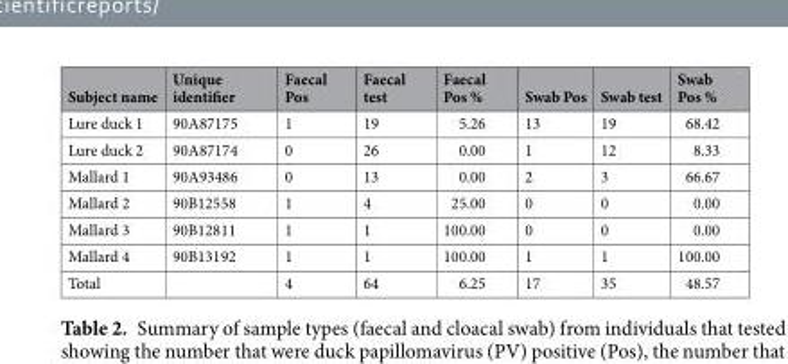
<table><thead><tr><td>Subject name</td><td>Unique identifier</td><td>Faecal Pos</td><td>Faecal test</td><td>Faecal Pos %</td><td>Swab Pos</td><td>Swab test</td><td>Swab Pos %</td></tr></thead><tbody><tr><td>Lure duck 1</td><td>90A87175</td><td>1</td><td>19</td><td>5.26</td><td>13</td><td>19</td><td>68.42</td></tr><tr><td>Lure duck 2</td><td>90A87174</td><td>0</td><td>26</td><td>0.00</td><td>1</td><td>12</td><td>8.33</td></tr><tr><td>Mallard 1</td><td>90A93486</td><td>0</td><td>13</td><td>0.00</td><td>2</td><td>3</td><td>66.67</td></tr><tr><td>Mallard 2</td><td>90B12558</td><td>1</td><td>4</td><td>25.00</td><td>0</td><td>0</td><td>0.00</td></tr><tr><td>Mallard 3</td><td>90B12811</td><td>1</td><td>1</td><td>100.00</td><td>0</td><td>0</td><td>0.00</td></tr><tr><td>Mallard 4</td><td>90B13192</td><td>1</td><td>1</td><td>100.00</td><td>1</td><td>1</td><td>100.00</td></tr><tr><td>Total</td><td></td><td>4</td><td>64</td><td>6.25</td><td>17</td><td>35</td><td>48.57</td></tr></tbody></table>